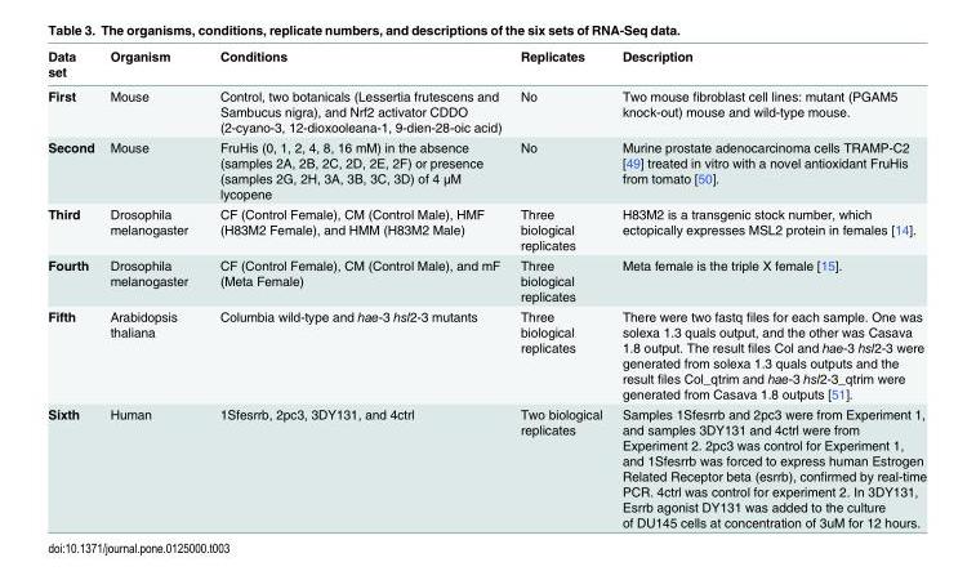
<table><thead><tr><td>Data set</td><td>Organism</td><td>Conditions</td><td>Replicates</td><td>Description</td></tr></thead><tbody><tr><td>First</td><td>Mouse</td><td>Control, two botanicals (Lessertia frutescens and Sambucus nigra), and Nrf2 activator CDDO (2-cyano-3, 12-dioxooleana-1, 9-dien-28-oic acid)</td><td>No</td><td>Two mouse fibroblast cell lines: mutant (PGAM5 knock-out) mouse and wild-type mouse.</td></tr><tr><td>Second</td><td>Mouse</td><td>FruHis (0, 1, 2, 4, 8, 16 mM) in the absence (samples 2A, 2B, 2C, 2D, 2E, 2F) or presence (samples 2G, 2H, 3A, 3B, 3C, 3D) of 4 μM lycopene</td><td>No</td><td>Murine prostate adenocarcinoma cells TRAMP-C2 [49] treated in vitro with a novel antioxidant FruHis from tomato [50].</td></tr><tr><td>Third</td><td>Drosophila melanogaster</td><td>CF (Control Female), CM (Control Male), HMF (H83M2 Female), and HMM (H83M2 Male)</td><td>Three biological replicates</td><td>H83M2 is a transgenic stock number, which ectopically expresses MSL2 protein in females [14].</td></tr><tr><td>Fourth</td><td>Drosophila melanogaster</td><td>CF (Control Female), CM (Control Male), and mF (Meta Female)</td><td>Three biological replicates</td><td>Meta female is the triple X female [15].</td></tr><tr><td>Fifth</td><td>Arabidopsis thaliana</td><td>Columbia wild-type and hae-3 hsl2-3 mutants</td><td>Three biological replicates</td><td>There were two fastq files for each sample. One was solexa 1.3 quals output, and the other was Casava 1.8 output. The result files Col and hae-3 hsl2-3 were generated from solexa 1.3 quals outputs and the result files Col_qtrim and hae-3 hsl2-3_qtrim were generated from Casava 1.8 outputs [51].</td></tr><tr><td>Sixth</td><td>Human</td><td>1Sfesrrb, 2pc3, 3DY131, and 4ctrl</td><td>Two biological replicates</td><td>Samples 1Sfesrrb and 2pc3 were from Experiment 1, and samples 3DY131 and 4ctrl were from Experiment 2. 2pc3 was control for Experiment 1, and 1Sfesrrb was forced to express human Estrogen Related Receptor beta (esrrb), confirmed by real-time PCR. 4ctrl was control for experiment 2. In 3DY131, Esrrb agonist DY131 was added to the culture of DU145 cells at concentration of 3uM for 12 hours.</td></tr></tbody></table>